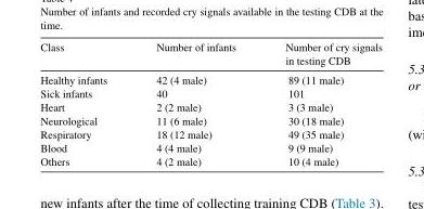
<table><thead><tr><td>Class</td><td>Number of infants</td><td>Number of cry signals in testing CDB</td></tr></thead><tbody><tr><td>Healthy infants</td><td>42 (4 male)</td><td>89 (11 male)</td></tr><tr><td>Sick infants</td><td>40</td><td>101</td></tr><tr><td>Heart</td><td>2 (2 male)</td><td>3 (3 male)</td></tr><tr><td>Neurological</td><td>11 (6 male)</td><td>30 (18 male)</td></tr><tr><td>Respiratory</td><td>18 (12 male)</td><td>49 (35 male)</td></tr><tr><td>Blood</td><td>4 (4 male)</td><td>9 (9 male)</td></tr><tr><td>Others</td><td>4 (2 male)</td><td>10 (4 male)</td></tr></tbody></table>